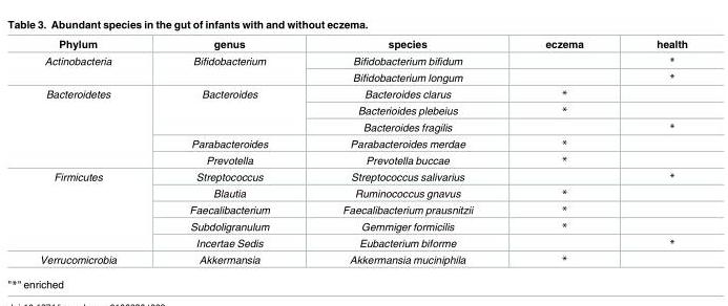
<table><thead><tr><td>Phylum</td><td>genus</td><td>species</td><td>eczema</td><td>health</td></tr></thead><tbody><tr><td rowspan="2">Actinobacteria</td><td rowspan="2">Bifidobacterium</td><td>Bifidobacterium bifidum</td><td></td><td>*</td></tr><tr><td>Bifidobacterium longum</td><td></td><td>*</td></tr><tr><td rowspan="5">Bacteroidetes</td><td rowspan="3">Bacteroides</td><td>Bacteroides clarus</td><td>*</td><td></td></tr><tr><td>Bacterioides plebeius</td><td>*</td><td></td></tr><tr><td>Bacteroides fragilis</td><td></td><td>*</td></tr><tr><td>Parabacteroides</td><td>Parabacteroides merdae</td><td>*</td><td></td></tr><tr><td>Prevotella</td><td>Prevotella buccae</td><td>*</td><td></td></tr><tr><td rowspan="5">Firmicutes</td><td>Streptococcus</td><td>Streptococcus salivarius</td><td></td><td>*</td></tr><tr><td>Blautia</td><td>Ruminococcus gnavus</td><td>*</td><td></td></tr><tr><td>Faecalibacterium</td><td>Faecalibacterium prausnitzii</td><td>*</td><td></td></tr><tr><td>Subdoligranulum</td><td>Gemmiger formicilis</td><td>*</td><td></td></tr><tr><td>Incertae Sedis</td><td>Eubacterium biforme</td><td></td><td>*</td></tr><tr><td>Verrucomicrobia</td><td>Akkermansia</td><td>Akkermansia muciniphila</td><td>*</td><td></td></tr></tbody></table>